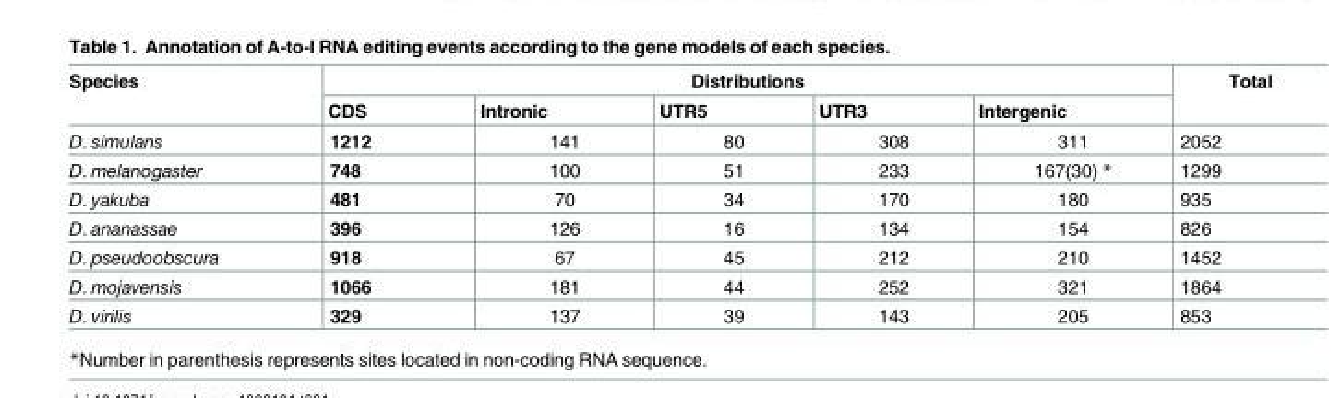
<table><thead><tr><td rowspan="2">Species</td><td colspan="5">Distributions</td><td rowspan="2">Total</td></tr><tr><td>CDS</td><td>Intronic</td><td>UTR5</td><td>UTR3</td><td>Intergenic</td></tr></thead><tbody><tr><td>D. simulans</td><td>1212</td><td>141</td><td>80</td><td>308</td><td>311</td><td>2052</td></tr><tr><td>D. melanogaster</td><td>748</td><td>100</td><td>51</td><td>233</td><td>167(30) *</td><td>1299</td></tr><tr><td>D. yakuba</td><td>481</td><td>70</td><td>34</td><td>170</td><td>180</td><td>935</td></tr><tr><td>D. ananassae</td><td>396</td><td>126</td><td>16</td><td>134</td><td>154</td><td>826</td></tr><tr><td>D. pseudoobscura</td><td>918</td><td>67</td><td>45</td><td>212</td><td>210</td><td>1452</td></tr><tr><td>D. mojavensis</td><td>1066</td><td>181</td><td>44</td><td>252</td><td>321</td><td>1864</td></tr><tr><td>D. virilis</td><td>329</td><td>137</td><td>39</td><td>143</td><td>205</td><td>853</td></tr></tbody></table>